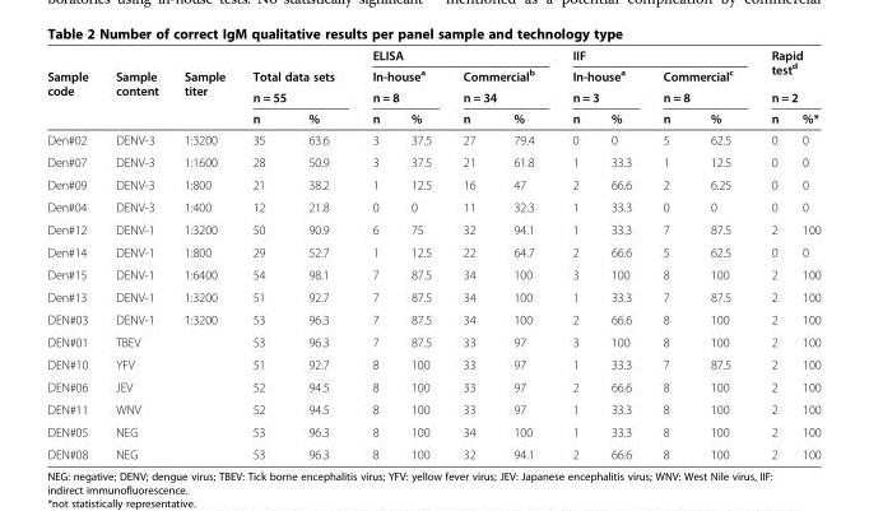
<table><thead><tr><td rowspan="4">Sample code</td><td rowspan="4">Sample content</td><td rowspan="4">Sample titer</td><td></td><td></td><td colspan="4">ELISA</td><td colspan="4">IIF</td><td rowspan="3" colspan="2">Rapid test<sup>d</sup> n = 2</td></tr><tr><td rowspan="2" colspan="2">Total data sets n = 55</td><td rowspan="2" colspan="2">In-house<sup>a</sup> n = 8</td><td rowspan="2" colspan="2">Commercial<sup>b</sup> n = 34</td><td rowspan="2" colspan="2">In-house<sup>a</sup> n = 3</td><td rowspan="2" colspan="2">Commercial<sup>c</sup> n = 8</td></tr><tr></tr><tr><td>n</td><td>%</td><td>n</td><td>%</td><td>n</td><td>%</td><td>n</td><td>%</td><td>n</td><td>%</td><td>n</td><td>%*</td></tr></thead><tbody><tr><td>Den#02</td><td>DENV-3</td><td>1:3200</td><td>35</td><td>63.6</td><td>3</td><td>37.5</td><td>27</td><td>79.4</td><td>0</td><td>0</td><td>5</td><td>62.5</td><td>0</td><td>0</td></tr><tr><td>Den#07</td><td>DENV-3</td><td>1:1600</td><td>28</td><td>50.9</td><td>3</td><td>37.5</td><td>21</td><td>61.8</td><td>1</td><td>33.3</td><td>1</td><td>12.5</td><td>0</td><td>0</td></tr><tr><td>Den#09</td><td>DENV-3</td><td>1:800</td><td>21</td><td>38.2</td><td>1</td><td>12.5</td><td>16</td><td>47</td><td>2</td><td>66.6</td><td>2</td><td>6.25</td><td>0</td><td>0</td></tr><tr><td>Den#04</td><td>DENV-3</td><td>1:400</td><td>12</td><td>21.8</td><td>0</td><td>0</td><td>11</td><td>32.3</td><td>1</td><td>33.3</td><td>0</td><td>0</td><td>0</td><td>0</td></tr><tr><td>Den#12</td><td>DENV-1</td><td>1:3200</td><td>50</td><td>90.9</td><td>6</td><td>75</td><td>32</td><td>94.1</td><td>1</td><td>33.3</td><td>7</td><td>87.5</td><td>2</td><td>100</td></tr><tr><td>Den#14</td><td>DENV-1</td><td>1:800</td><td>29</td><td>52.7</td><td>1</td><td>12.5</td><td>22</td><td>64.7</td><td>2</td><td>66.6</td><td>5</td><td>62.5</td><td>0</td><td>0</td></tr><tr><td>Den#15</td><td>DENV-1</td><td>1:6400</td><td>54</td><td>98.1</td><td>7</td><td>87.5</td><td>34</td><td>100</td><td>3</td><td>100</td><td>8</td><td>100</td><td>2</td><td>100</td></tr><tr><td>Den#13</td><td>DENV-1</td><td>1:3200</td><td>51</td><td>92.7</td><td>7</td><td>87.5</td><td>34</td><td>100</td><td>1</td><td>33.3</td><td>7</td><td>87.5</td><td>2</td><td>100</td></tr><tr><td>DEN#03</td><td>DENV-1</td><td>1:3200</td><td>53</td><td>96.3</td><td>7</td><td>87.5</td><td>34</td><td>100</td><td>2</td><td>66.6</td><td>8</td><td>100</td><td>2</td><td>100</td></tr><tr><td>DEN#01</td><td>TBEV</td><td></td><td>53</td><td>96.3</td><td>7</td><td>87.5</td><td>33</td><td>97</td><td>3</td><td>100</td><td>8</td><td>100</td><td>2</td><td>100</td></tr><tr><td>DEN#10</td><td>YFV</td><td></td><td>51</td><td>92.7</td><td>8</td><td>100</td><td>33</td><td>97</td><td>1</td><td>33.3</td><td>7</td><td>87.5</td><td>2</td><td>100</td></tr><tr><td>DEN#06</td><td>JEV</td><td></td><td>52</td><td>94.5</td><td>8</td><td>100</td><td>33</td><td>97</td><td>2</td><td>66.6</td><td>8</td><td>100</td><td>2</td><td>100</td></tr><tr><td>DEN#11</td><td>WNV</td><td></td><td>52</td><td>94.5</td><td>8</td><td>100</td><td>33</td><td>97</td><td>1</td><td>33.3</td><td>8</td><td>100</td><td>2</td><td>100</td></tr><tr><td>DEN#05</td><td>NEG</td><td></td><td>53</td><td>96.3</td><td>8</td><td>100</td><td>34</td><td>100</td><td>1</td><td>33.3</td><td>8</td><td>100</td><td>2</td><td>100</td></tr><tr><td>DEN#08</td><td>NEG</td><td></td><td>53</td><td>96.3</td><td>8</td><td>100</td><td>32</td><td>94.1</td><td>2</td><td>66.6</td><td>8</td><td>100</td><td>2</td><td>100</td></tr></tbody></table>